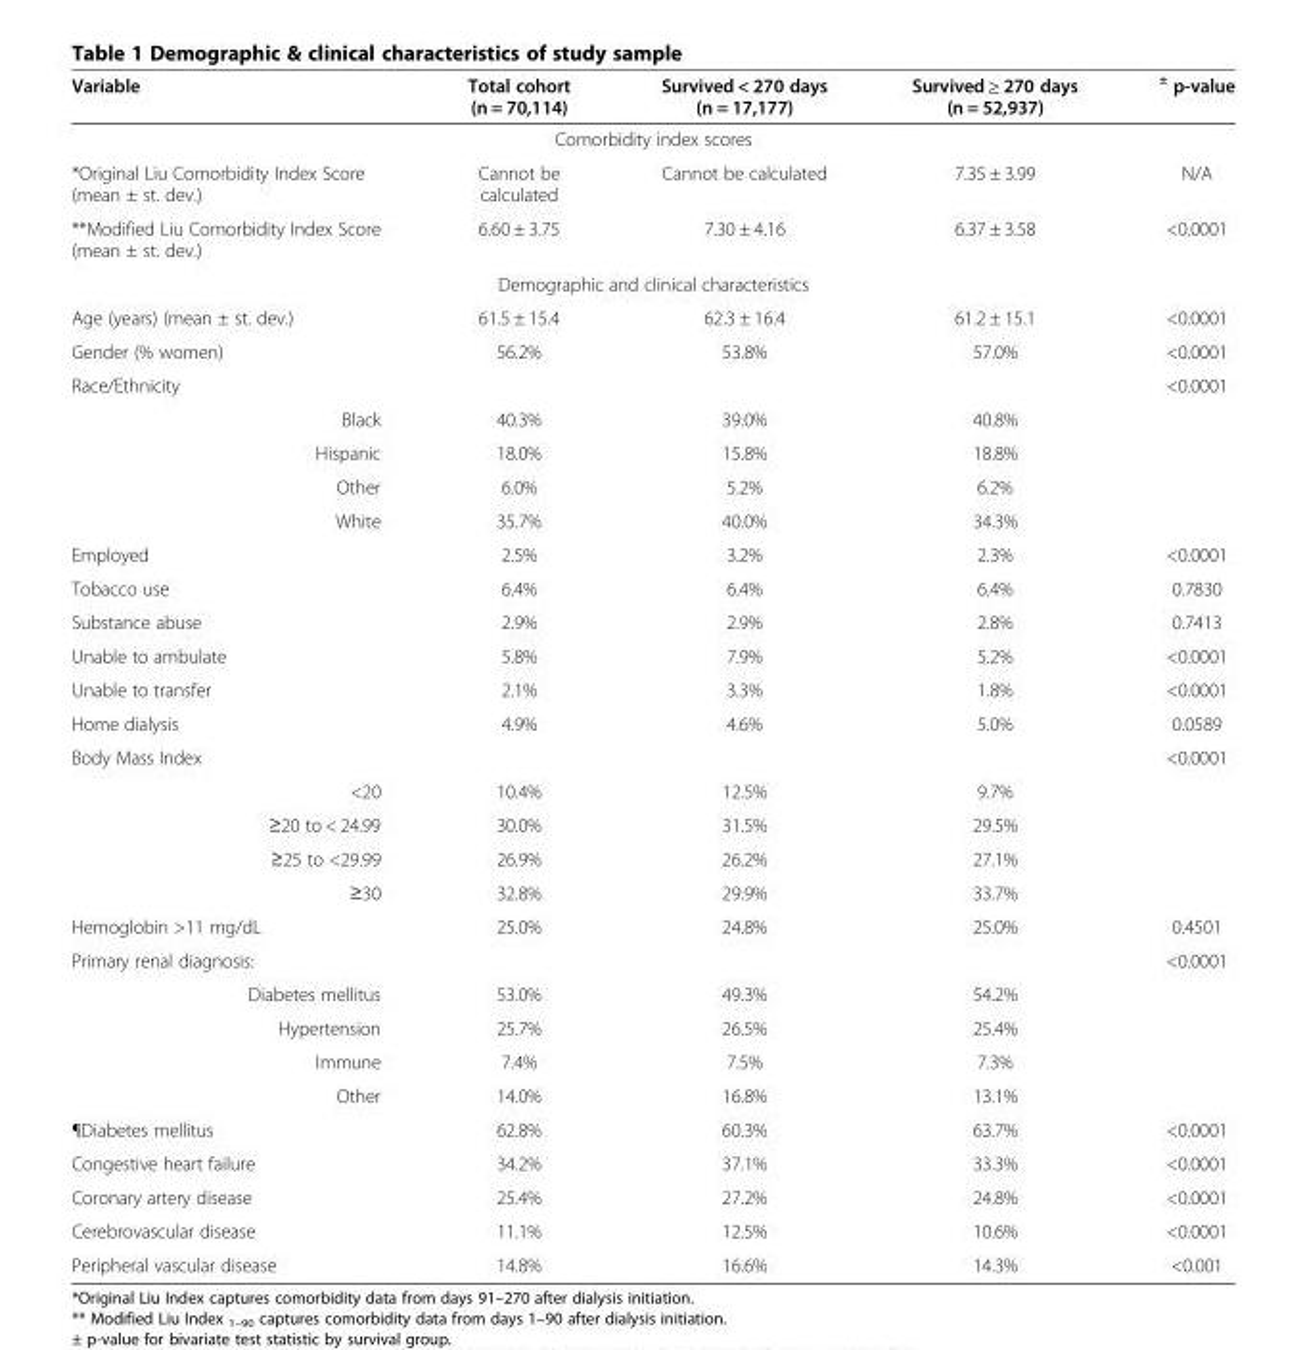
<table><thead><tr><td>Variable</td><td>Total cohort (n = 70,114)</td><td>Survived &lt; 270 days (n = 17,177)</td><td>Survived ≥ 270 days (n = 52,937)</td><td><sup>±</sup> p-value</td></tr></thead><tbody><tr><td colspan="5">Comorbidity index scores</td></tr><tr><td>*Original Liu Comorbidity Index Score (mean ± st. dev.)</td><td>Cannot be calculated</td><td>Cannot be calculated</td><td>7.35 ± 3.99</td><td>N/A</td></tr><tr><td>**Modified Liu Comorbidity Index Score (mean ± st. dev.)</td><td>6.60 ± 3.75</td><td>7.30 ± 4.16</td><td>6.37 ± 3.58</td><td>&lt;0.0001</td></tr><tr><td colspan="5">Demographic and clinical characteristics</td></tr><tr><td>Age (years) (mean ± st. dev.)</td><td>61.5 ± 15.4</td><td>62.3 ± 16.4</td><td>61.2 ± 15.1</td><td>&lt;0.0001</td></tr><tr><td>Gender (% women)</td><td>56.2%</td><td>53.8%</td><td>57.0%</td><td>&lt;0.0001</td></tr><tr><td>Race/Ethnicity</td><td></td><td></td><td></td><td>&lt;0.0001</td></tr><tr><td>Black</td><td>40.3%</td><td>39.0%</td><td>40.8%</td><td></td></tr><tr><td>Hispanic</td><td>18.0%</td><td>15.8%</td><td>18.8%</td><td></td></tr><tr><td>Other</td><td>6.0%</td><td>5.2%</td><td>6.2%</td><td></td></tr><tr><td>White</td><td>35.7%</td><td>40.0%</td><td>34.3%</td><td></td></tr><tr><td>Employed</td><td>2.5%</td><td>3.2%</td><td>2.3%</td><td>&lt;0.0001</td></tr><tr><td>Tobacco use</td><td>6.4%</td><td>6.4%</td><td>6.4%</td><td>0.7830</td></tr><tr><td>Substance abuse</td><td>2.9%</td><td>2.9%</td><td>2.8%</td><td>0.7413</td></tr><tr><td>Unable to ambulate</td><td>5.8%</td><td>7.9%</td><td>5.2%</td><td>&lt;0.0001</td></tr><tr><td>Unable to transfer</td><td>2.1%</td><td>3.3%</td><td>1.8%</td><td>&lt;0.0001</td></tr><tr><td>Home dialysis</td><td>4.9%</td><td>4.6%</td><td>5.0%</td><td>0.0589</td></tr><tr><td>Body Mass Index</td><td></td><td></td><td></td><td>&lt;0.0001</td></tr><tr><td>&lt;20</td><td>10.4%</td><td>12.5%</td><td>9.7%</td><td></td></tr><tr><td>≥20 to &lt; 24.99</td><td>30.0%</td><td>31.5%</td><td>29.5%</td><td></td></tr><tr><td>≥25 to &lt;29.99</td><td>26.9%</td><td>26.2%</td><td>27.1%</td><td></td></tr><tr><td>≥30</td><td>32.8%</td><td>29.9%</td><td>33.7%</td><td></td></tr><tr><td>Hemoglobin &gt;11 mg/dL</td><td>25.0%</td><td>24.8%</td><td>25.0%</td><td>0.4501</td></tr><tr><td>Primary renal diagnosis:</td><td></td><td></td><td></td><td>&lt;0.0001</td></tr><tr><td>Diabetes mellitus</td><td>53.0%</td><td>49.3%</td><td>54.2%</td><td></td></tr><tr><td>Hypertension</td><td>25.7%</td><td>26.5%</td><td>25.4%</td><td></td></tr><tr><td>Immune</td><td>7.4%</td><td>7.5%</td><td>7.3%</td><td></td></tr><tr><td>Other</td><td>14.0%</td><td>16.8%</td><td>13.1%</td><td></td></tr><tr><td>¶Diabetes mellitus</td><td>62.8%</td><td>60.3%</td><td>63.7%</td><td>&lt;0.0001</td></tr><tr><td>Congestive heart failure</td><td>34.2%</td><td>37.1%</td><td>33.3%</td><td>&lt;0.0001</td></tr><tr><td>Coronary artery disease</td><td>25.4%</td><td>27.2%</td><td>24.8%</td><td>&lt;0.0001</td></tr><tr><td>Cerebrovascular disease</td><td>11.1%</td><td>12.5%</td><td>10.6%</td><td>&lt;0.0001</td></tr><tr><td>Peripheral vascular disease</td><td>14.8%</td><td>16.6%</td><td>14.3%</td><td>&lt;0.001</td></tr></tbody></table>